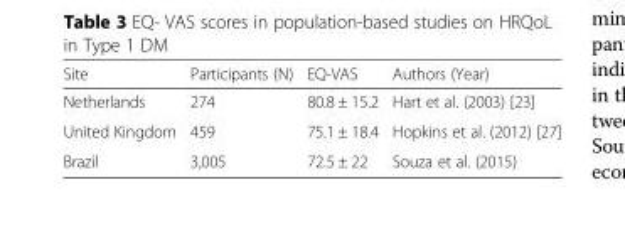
<table><thead><tr><td>Site</td><td>Participants (N)</td><td>EQ-VAS</td><td>Authors (Year)</td></tr></thead><tbody><tr><td>Netherlands</td><td>274</td><td>80.8 ± 15.2</td><td>Hart et al. (2003) [23]</td></tr><tr><td>United Kingdom</td><td>459</td><td>75.1 ± 18.4</td><td>Hopkins et al. (2012) [27]</td></tr><tr><td>Brazil</td><td>3,005</td><td>72.5 ± 22</td><td>Souza et al. (2015)</td></tr></tbody></table>